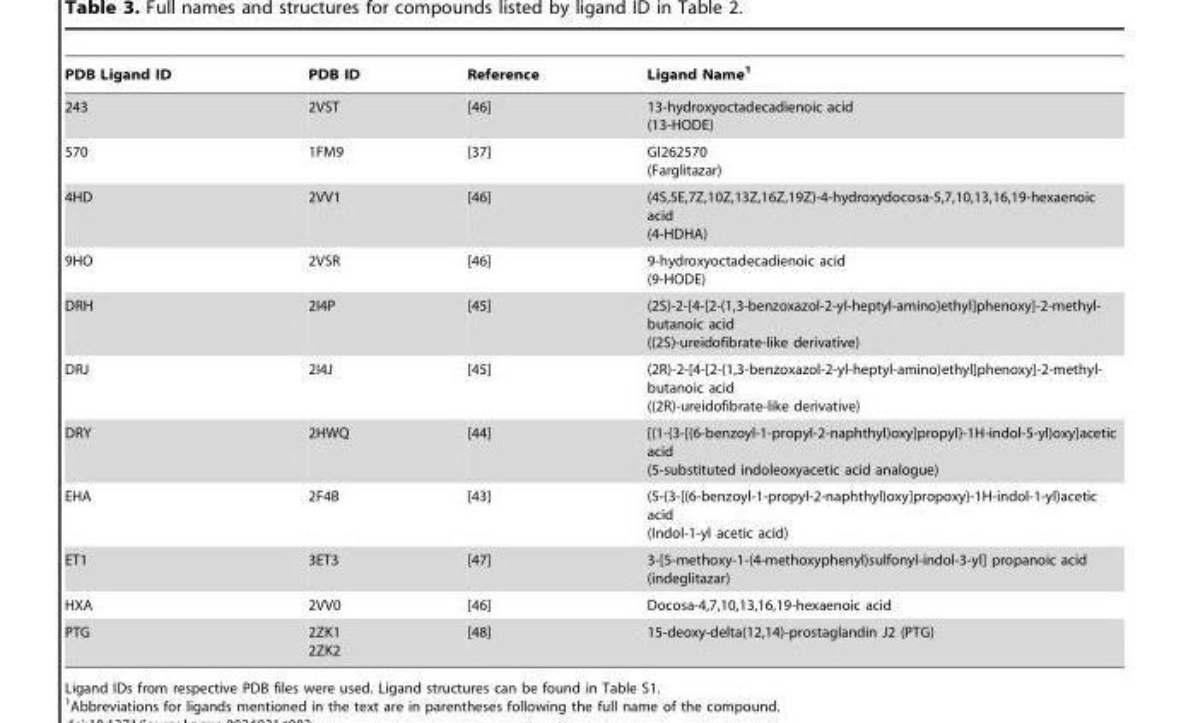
<table><thead><tr><td>PDB Ligand ID</td><td>PDB ID</td><td>Reference</td><td>Ligand Name<sup>1</sup></td></tr></thead><tbody><tr><td>243</td><td>2VST</td><td>[46]</td><td>13-hydroxyoctadecadienoic acid (13-HODE)</td></tr><tr><td>570</td><td>1FM9</td><td>[37]</td><td>GI262570 (Farglitazar)</td></tr><tr><td>4HD</td><td>2VV1</td><td>[46]</td><td>(4S,5E,7Z,10Z,13Z,16Z,19Z)-4-hydroxydocosa-5,7,10,13,16,19-hexaenoic acid (4-HDHA)</td></tr><tr><td>9HO</td><td>2VSR</td><td>[46]</td><td>9-hydroxyoctadecadienoic acid (9-HODE)</td></tr><tr><td>DRH</td><td>2I4P</td><td>[45]</td><td>(2S)-2-[4-[2-(1,3-benzoxazol-2-yl-heptyl-amino)ethyl]phenoxy]-2-methyl- butanoic acid ((2S)-ureidofibrate-like derivative)</td></tr><tr><td>DRJ</td><td>2I4J</td><td>[45]</td><td>(2R)-2-[4-[2-(1,3-benzoxazol-2-yl-heptyl-amino)ethyl]phenoxy]-2-methyl- butanoic acid ((2R)-ureidofibrate-like derivative)</td></tr><tr><td>DRY</td><td>2HWQ</td><td>[44]</td><td>[(1-{3-[(6-benzoyl-1-propyl-2-naphthyl)oxy]propyl}-1H-indol-5-yl)oxy]acetic acid (5-substituted indoleoxyacetic acid analogue)</td></tr><tr><td>EHA</td><td>2F4B</td><td>[43]</td><td>(5-{3-[(6-benzoyl-1-propyl-2-naphthyl)oxy]propoxy}-1H-indol-1-yl)acetic acid (Indol-1-yl acetic acid)</td></tr><tr><td>ET1</td><td>3ET3</td><td>[47]</td><td>3-[5-methoxy-1-(4-methoxyphenyl)sulfonyl-indol-3-yl] propanoic acid (indeglitazar)</td></tr><tr><td>HXA</td><td>2VV0</td><td>[46]</td><td>Docosa-4,7,10,13,16,19-hexaenoic acid</td></tr><tr><td>PTG</td><td>2ZK1 2ZK2</td><td>[48]</td><td>15-deoxy-delta(12,14)-prostaglandin J2 (PTG)</td></tr></tbody></table>